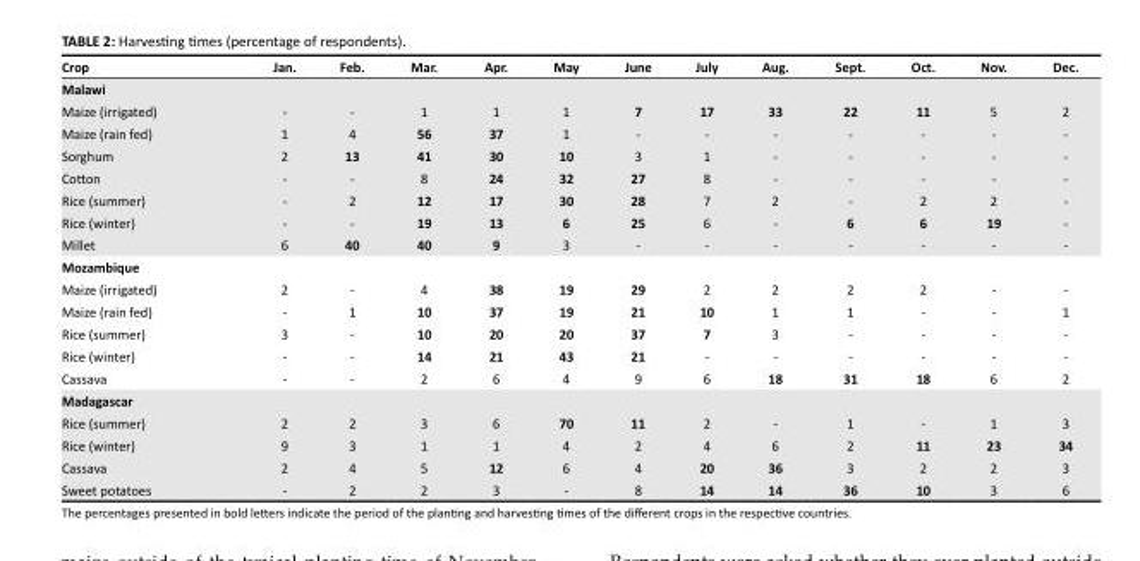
<table><thead><tr><td>Crop</td><td>Jan.</td><td>Feb.</td><td>Mar.</td><td>Apr.</td><td>May</td><td>June</td><td>July</td><td>Aug.</td><td>Sept.</td><td>Oct.</td><td>Nov.</td><td>Dec.</td></tr></thead><tbody><tr><td colspan="13">Malawi</td></tr><tr><td>Maize (irrigated)</td><td>-</td><td>-</td><td>1</td><td>1</td><td>1</td><td>7</td><td>17</td><td>33</td><td>22</td><td>11</td><td>5</td><td>2</td></tr><tr><td>Maize (rain fed)</td><td>1</td><td>4</td><td>56</td><td>37</td><td>1</td><td>-</td><td>-</td><td>-</td><td>-</td><td>-</td><td>-</td><td>-</td></tr><tr><td>Sorghum</td><td>2</td><td>13</td><td>41</td><td>30</td><td>10</td><td>3</td><td>1</td><td>-</td><td>-</td><td>-</td><td>-</td><td>-</td></tr><tr><td>Cotton</td><td>-</td><td>-</td><td>8</td><td>24</td><td>32</td><td>27</td><td>8</td><td>-</td><td>-</td><td>-</td><td>-</td><td>-</td></tr><tr><td>Rice (summer)</td><td>-</td><td>2</td><td>12</td><td>17</td><td>30</td><td>28</td><td>7</td><td>2</td><td>-</td><td>2</td><td>2</td><td>-</td></tr><tr><td>Rice (winter)</td><td>-</td><td>-</td><td>19</td><td>13</td><td>6</td><td>25</td><td>6</td><td>-</td><td>6</td><td>6</td><td>19</td><td>-</td></tr><tr><td>Millet</td><td>6</td><td>40</td><td>40</td><td>9</td><td>3</td><td>-</td><td>-</td><td>-</td><td>-</td><td>-</td><td>-</td><td>-</td></tr><tr><td colspan="13">Mozambique</td></tr><tr><td>Maize (irrigated)</td><td>2</td><td>-</td><td>4</td><td>38</td><td>19</td><td>29</td><td>2</td><td>2</td><td>2</td><td>2</td><td>-</td><td>-</td></tr><tr><td>Maize (rain fed)</td><td>-</td><td>1</td><td>10</td><td>37</td><td>19</td><td>21</td><td>10</td><td>1</td><td>1</td><td>-</td><td>-</td><td>1</td></tr><tr><td>Rice (summer)</td><td>3</td><td>-</td><td>10</td><td>20</td><td>20</td><td>37</td><td>7</td><td>3</td><td>-</td><td>-</td><td>-</td><td>-</td></tr><tr><td>Rice (winter)</td><td>-</td><td>-</td><td>14</td><td>21</td><td>43</td><td>21</td><td>-</td><td>-</td><td>-</td><td>-</td><td>-</td><td>-</td></tr><tr><td>Cassava</td><td>-</td><td>-</td><td>2</td><td>6</td><td>4</td><td>9</td><td>6</td><td>18</td><td>31</td><td>18</td><td>6</td><td>2</td></tr><tr><td colspan="13">Madagascar</td></tr><tr><td>Rice (summer)</td><td>2</td><td>2</td><td>3</td><td>6</td><td>70</td><td>11</td><td>2</td><td>-</td><td>1</td><td>-</td><td>1</td><td>3</td></tr><tr><td>Rice (winter)</td><td>9</td><td>3</td><td>1</td><td>1</td><td>4</td><td>2</td><td>4</td><td>6</td><td>2</td><td>11</td><td>23</td><td>34</td></tr><tr><td>Cassava</td><td>2</td><td>4</td><td>5</td><td>12</td><td>6</td><td>4</td><td>20</td><td>36</td><td>3</td><td>2</td><td>2</td><td>3</td></tr><tr><td>Sweet potatoes</td><td>-</td><td>2</td><td>2</td><td>3</td><td>-</td><td>8</td><td>14</td><td>14</td><td>36</td><td>10</td><td>3</td><td>6</td></tr></tbody></table>